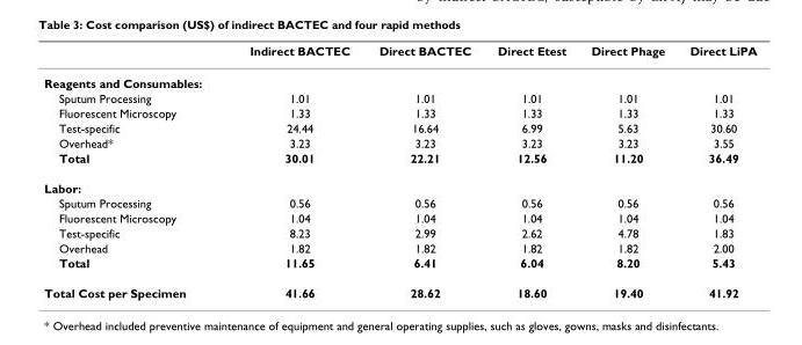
<table><thead><tr><td></td><td>Indirect BACTEC</td><td>Direct BACTEC</td><td>Direct Etest</td><td>Direct Phage</td><td>Direct LiPA</td></tr></thead><tbody><tr><td colspan="6">Reagents and Consumables:</td></tr><tr><td>Sputum Processing</td><td>1.01</td><td>1.01</td><td>1.01</td><td>1.01</td><td>1.01</td></tr><tr><td>Fluorescent Microscopy</td><td>1.33</td><td>1.33</td><td>1.33</td><td>1.33</td><td>1.33</td></tr><tr><td>Test-specific</td><td>24.44</td><td>16.64</td><td>6.99</td><td>5.63</td><td>30.60</td></tr><tr><td>Overhead*</td><td>3.23</td><td>3.23</td><td>3.23</td><td>3.23</td><td>3.55</td></tr><tr><td>Total</td><td>30.01</td><td>22.21</td><td>12.56</td><td>11.20</td><td>36.49</td></tr><tr><td colspan="6">Labor:</td></tr><tr><td>Sputum Processing</td><td>0.56</td><td>0.56</td><td>0.56</td><td>0.56</td><td>0.56</td></tr><tr><td>Fluorescent Microscopy</td><td>1.04</td><td>1.04</td><td>1.04</td><td>1.04</td><td>1.04</td></tr><tr><td>Test-specific</td><td>8.23</td><td>2.99</td><td>2.62</td><td>4.78</td><td>1.83</td></tr><tr><td>Overhead</td><td>1.82</td><td>1.82</td><td>1.82</td><td>1.82</td><td>2.00</td></tr><tr><td>Total</td><td>11.65</td><td>6.41</td><td>6.04</td><td>8.20</td><td>5.43</td></tr><tr><td>Total Cost per Specimen</td><td>41.66</td><td>28.62</td><td>18.60</td><td>19.40</td><td>41.92</td></tr></tbody></table>